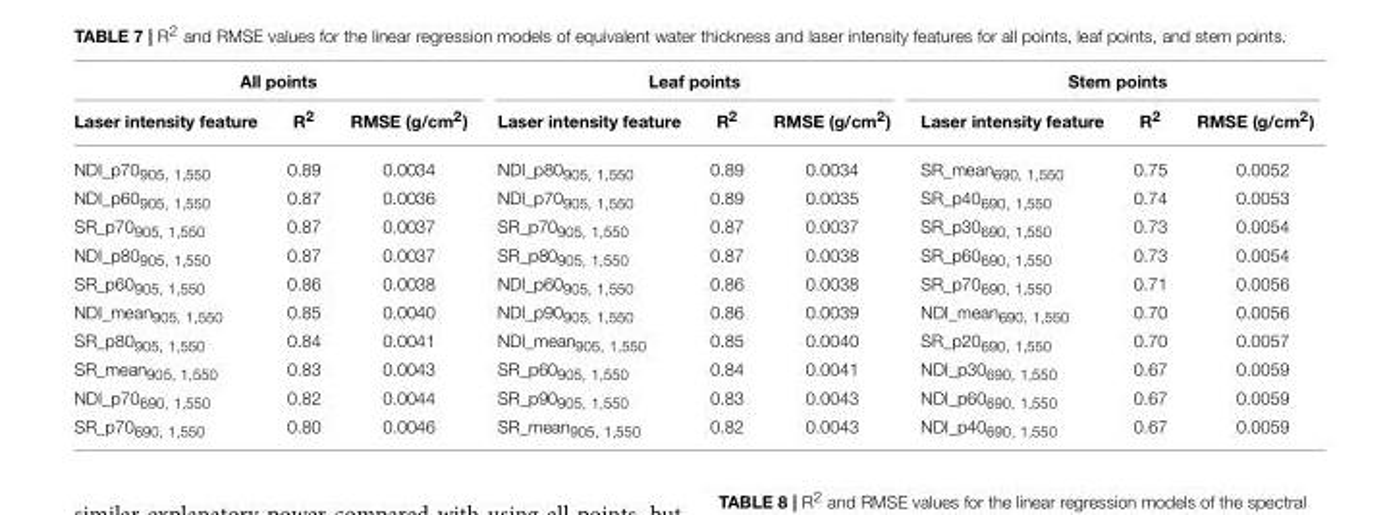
<table><thead><tr><td colspan="3">All points</td><td colspan="3">Leaf points</td><td colspan="3">Stem points</td></tr><tr><td>Laser intensity feature</td><td>R<sup>2</sup></td><td>RMSE (g/cm<sup>2</sup>)</td><td>Laser intensity feature</td><td>R<sup>2</sup></td><td>RMSE (g/cm<sup>2</sup>)</td><td>Laser intensity feature</td><td>R<sup>2</sup></td><td>RMSE (g/cm<sup>2</sup>)</td></tr></thead><tbody><tr><td>NDI_p70<sub>905, 1,550</sub></td><td>0.89</td><td>0.0034</td><td>NDI_p80<sub>905, 1,550</sub></td><td>0.89</td><td>0.0034</td><td>SR_mean<sub>690, 1,550</sub></td><td>0.75</td><td>0.0052</td></tr><tr><td>NDI_p60<sub>905, 1,550</sub></td><td>0.87</td><td>0.0036</td><td>NDI_p70<sub>905, 1,550</sub></td><td>0.89</td><td>0.0035</td><td>SR_p40<sub>690, 1,550</sub></td><td>0.74</td><td>0.0053</td></tr><tr><td>SR_p70<sub>905, 1,550</sub></td><td>0.87</td><td>0.0037</td><td>SR_p70<sub>905, 1,550</sub></td><td>0.87</td><td>0.0037</td><td>SR_p30<sub>690, 1,550</sub></td><td>0.73</td><td>0.0054</td></tr><tr><td>NDI_p80<sub>905, 1,550</sub></td><td>0.87</td><td>0.0037</td><td>SR_p80<sub>905, 1,550</sub></td><td>0.87</td><td>0.0038</td><td>SR_p60<sub>690, 1,550</sub></td><td>0.73</td><td>0.0054</td></tr><tr><td>SR_p60<sub>905, 1,550</sub></td><td>0.86</td><td>0.0038</td><td>NDI_p60<sub>905, 1,550</sub></td><td>0.86</td><td>0.0038</td><td>SR_p70<sub>690, 1,550</sub></td><td>0.71</td><td>0.0056</td></tr><tr><td>NDI_mean<sub>905, 1,550</sub></td><td>0.85</td><td>0.0040</td><td>NDI_p90<sub>905, 1,550</sub></td><td>0.86</td><td>0.0039</td><td>NDI_mean<sub>690, 1,550</sub></td><td>0.70</td><td>0.0056</td></tr><tr><td>SR_p80<sub>905, 1,550</sub></td><td>0.84</td><td>0.0041</td><td>NDI_mean<sub>905, 1,550</sub></td><td>0.85</td><td>0.0040</td><td>SR_p20<sub>690, 1,550</sub></td><td>0.70</td><td>0.0057</td></tr><tr><td>SR_mean<sub>905, 1,550</sub></td><td>0.83</td><td>0.0043</td><td>SR_p60<sub>905, 1,550</sub></td><td>0.84</td><td>0.0041</td><td>NDI_p30<sub>690, 1,550</sub></td><td>0.67</td><td>0.0059</td></tr><tr><td>NDI_p70<sub>690, 1,550</sub></td><td>0.82</td><td>0.0044</td><td>SR_p90<sub>905, 1,550</sub></td><td>0.83</td><td>0.0043</td><td>NDI_p60<sub>690, 1,550</sub></td><td>0.67</td><td>0.0059</td></tr><tr><td>SR_p70<sub>690, 1,550</sub></td><td>0.80</td><td>0.0046</td><td>SR_mean<sub>905, 1,550</sub></td><td>0.82</td><td>0.0043</td><td>NDI_p40<sub>690, 1,550</sub></td><td>0.67</td><td>0.0059</td></tr></tbody></table>